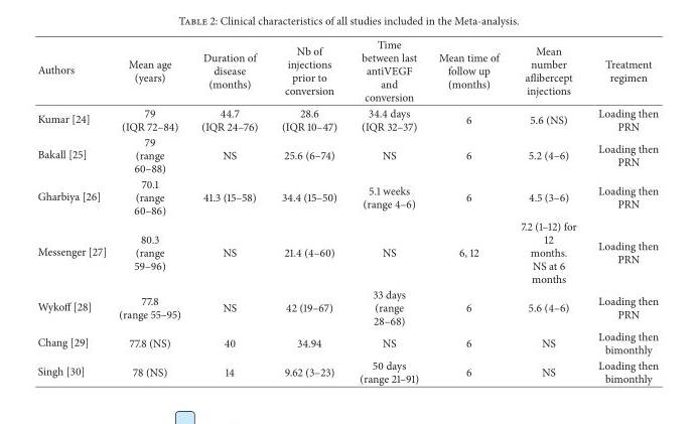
<table><thead><tr><td>Authors</td><td>Mean age (years)</td><td>Duration of disease (months)</td><td>Nb of injections prior to conversion</td><td>Time between last antiVEGF and conversion</td><td>Mean time of follow up (months)</td><td>Mean number aflibercept injections</td><td>Treatment regimen</td></tr></thead><tbody><tr><td>Kumar [24]</td><td>79 (IQR 72–84)</td><td>44.7 (IQR 24–76)</td><td>28.6 (IQR 10–47)</td><td>34.4 days (IQR 32–37)</td><td>6</td><td>5.6 (NS)</td><td>Loading then PRN</td></tr><tr><td>Bakall [25]</td><td>79 (range 60–88)</td><td>NS</td><td>25.6 (6–74)</td><td>NS</td><td>6</td><td>5.2 (4–6)</td><td>Loading then PRN</td></tr><tr><td>Gharbiya [26]</td><td>70.1 (range 60–86)</td><td>41.3 (15–58)</td><td>34.4 (15–50)</td><td>5.1 weeks (range 4–6)</td><td>6</td><td>4.5 (3–6)</td><td>Loading then PRN</td></tr><tr><td>Messenger [27]</td><td>80.3 (range 59–96)</td><td>NS</td><td>21.4 (4–60)</td><td>NS</td><td>6, 12</td><td>7.2 (1–12) for 12 months. NS at 6 months</td><td>Loading then PRN</td></tr><tr><td>Wykoff [28]</td><td>77.8 (range 55–95)</td><td>NS</td><td>42 (19–67)</td><td>33 days (range 28–68)</td><td>6</td><td>5.6 (4–6)</td><td>Loading then PRN</td></tr><tr><td>Chang [29]</td><td>77.8 (NS)</td><td>40</td><td>34.94</td><td>NS</td><td>6</td><td>NS</td><td>Loading then bimonthly</td></tr><tr><td>Singh [30]</td><td>78 (NS)</td><td>14</td><td>9.62 (3–23)</td><td>50 days (range 21–91)</td><td>6</td><td>NS</td><td>Loading then bimonthly</td></tr></tbody></table>